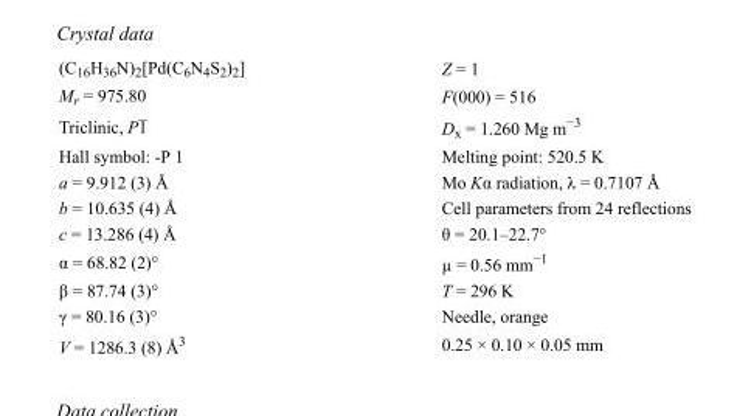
<table><tbody><tr><td>(C<sub>16</sub>H<sub>36</sub>N)<sub>2</sub>[Pd(C<sub>6</sub>N<sub>4</sub>S<sub>2</sub>)<sub>2</sub>]</td><td>Z = 1</td></tr><tr><td>M<sub>r</sub> = 975.80</td><td>F(000) = 516</td></tr><tr><td>Triclinic, P1</td><td>D<sub>x</sub> = 1.260 Mg m<sup>−3</sup></td></tr><tr><td>Hall symbol: -P 1</td><td>Melting point: 520.5 K</td></tr><tr><td>a = 9.912 (3) Å</td><td>Mo Kα radiation, λ = 0.7107 Å</td></tr><tr><td>b = 10.635 (4) Å</td><td>Cell parameters from 24 reflections</td></tr><tr><td>c = 13.286 (4) Å</td><td>θ = 20.1–22.7°</td></tr><tr><td>α = 68.82 (2)°</td><td>µ = 0.56 mm<sup>−1</sup></td></tr><tr><td>β = 87.74 (3)°</td><td>T = 296 K</td></tr><tr><td>γ = 80.16 (3)°</td><td>Needle, orange</td></tr><tr><td>V = 1286.3 (8) Å<sup>3</sup></td><td>0.25 × 0.10 × 0.05 mm</td></tr></tbody></table>